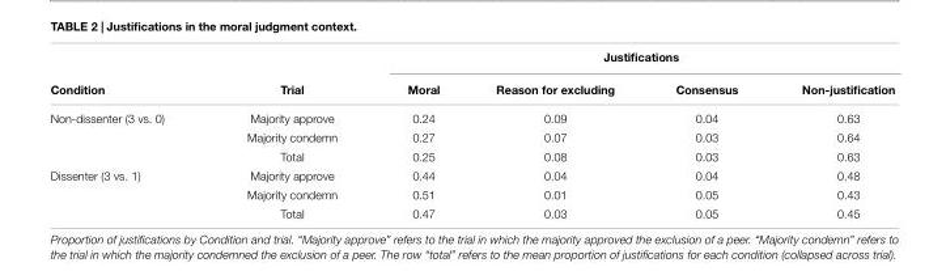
<table><thead><tr><td rowspan="2">Condition</td><td rowspan="2">Trial</td><td colspan="4">Justifications</td></tr><tr><td>Moral</td><td>Reason for excluding</td><td>Consensus</td><td>Non-justification</td></tr></thead><tbody><tr><td rowspan="3">Non-dissenter (3 vs. 0)</td><td>Majority approve</td><td>0.24</td><td>0.09</td><td>0.04</td><td>0.63</td></tr><tr><td>Majority condemn</td><td>0.27</td><td>0.07</td><td>0.03</td><td>0.64</td></tr><tr><td>Total</td><td>0.25</td><td>0.08</td><td>0.03</td><td>0.63</td></tr><tr><td rowspan="3">Dissenter (3 vs. 1)</td><td>Majority approve</td><td>0.44</td><td>0.04</td><td>0.04</td><td>0.48</td></tr><tr><td>Majority condemn</td><td>0.51</td><td>0.01</td><td>0.05</td><td>0.43</td></tr><tr><td>Total</td><td>0.47</td><td>0.03</td><td>0.05</td><td>0.45</td></tr></tbody></table>